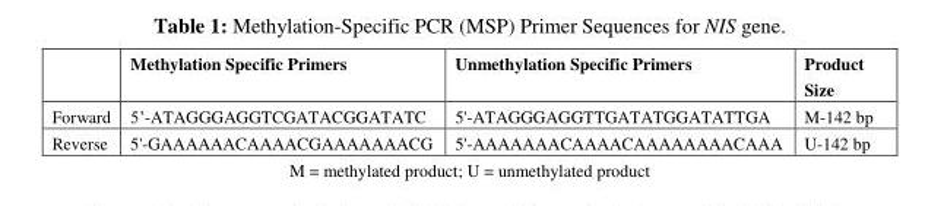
<table><thead><tr><td></td><td>Methylation Specific Primers</td><td>Unmethylation Specific Primers</td><td>Product Size</td></tr></thead><tbody><tr><td>Forward</td><td>5’-ATAGGGAGGTCGATACGGATATC</td><td>5&#x27;-ATAGGGAGGTTGATATGGATATTGA</td><td>M-142 bp</td></tr><tr><td>Reverse</td><td>5&#x27;-GAAAAAACAAAACGAAAAAAACG</td><td>5&#x27;-AAAAAAACAAAACAAAAAAAACAAA</td><td>U-142 bp</td></tr></tbody></table>